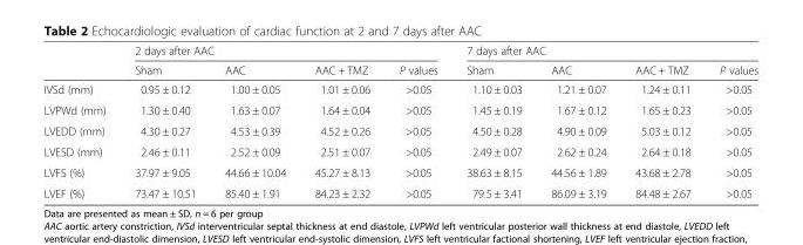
<table><thead><tr><td rowspan="2"></td><td colspan="4">2 days after AAC</td><td colspan="4">7 days after AAC</td></tr><tr><td>Sham</td><td>AAC</td><td>AAC + TMZ</td><td>P values</td><td>Sham</td><td>AAC</td><td>AAC + TMZ</td><td>P values</td></tr></thead><tbody><tr><td>IVSd (mm)</td><td>0.95 ± 0.12</td><td>1.00 ± 0.05</td><td>1.01 ± 0.06</td><td>&gt;0.05</td><td>1.10 ± 0.03</td><td>1.21 ± 0.07</td><td>1.24 ± 0.11</td><td>&gt;0.05</td></tr><tr><td>LVPWd (mm)</td><td>1.30 ± 0.40</td><td>1.63 ± 0.07</td><td>1.64 ± 0.04</td><td>&gt;0.05</td><td>1.45 ± 0.19</td><td>1.67 ± 0.12</td><td>1.65 ± 0.23</td><td>&gt;0.05</td></tr><tr><td>LVEDD (mm)</td><td>4.30 ± 0.27</td><td>4.53 ± 0.39</td><td>4.52 ± 0.26</td><td>&gt;0.05</td><td>4.50 ± 0.28</td><td>4.90 ± 0.09</td><td>5.03 ± 0.12</td><td>&gt;0.05</td></tr><tr><td>LVESD (mm)</td><td>2.46 ± 0.11</td><td>2.52 ± 0.09</td><td>2.51 ± 0.07</td><td>&gt;0.05</td><td>2.49 ± 0.07</td><td>2.62 ± 0.24</td><td>2.64 ± 0.18</td><td>&gt;0.05</td></tr><tr><td>LVFS (%)</td><td>37.97 ± 9.05</td><td>44.66 ± 10.04</td><td>45.27 ± 8.13</td><td>&gt;0.05</td><td>38.63 ± 8.15</td><td>44.56 ± 1.89</td><td>43.68 ± 2.78</td><td>&gt;0.05</td></tr><tr><td>LVEF (%)</td><td>73.47 ± 10.51</td><td>85.40 ± 1.91</td><td>84.23 ± 2.32</td><td>&gt;0.05</td><td>79.5 ± 3.41</td><td>86.09 ± 3.19</td><td>84.48 ± 2.67</td><td>&gt;0.05</td></tr></tbody></table>